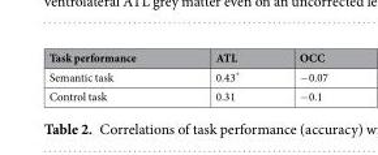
<table><thead><tr><td>Task performance</td><td>ATL</td><td>OCC</td></tr></thead><tbody><tr><td>Semantic task</td><td>0.43*</td><td>−0.07</td></tr><tr><td>Control task</td><td>0.31</td><td>−0.1</td></tr></tbody></table>